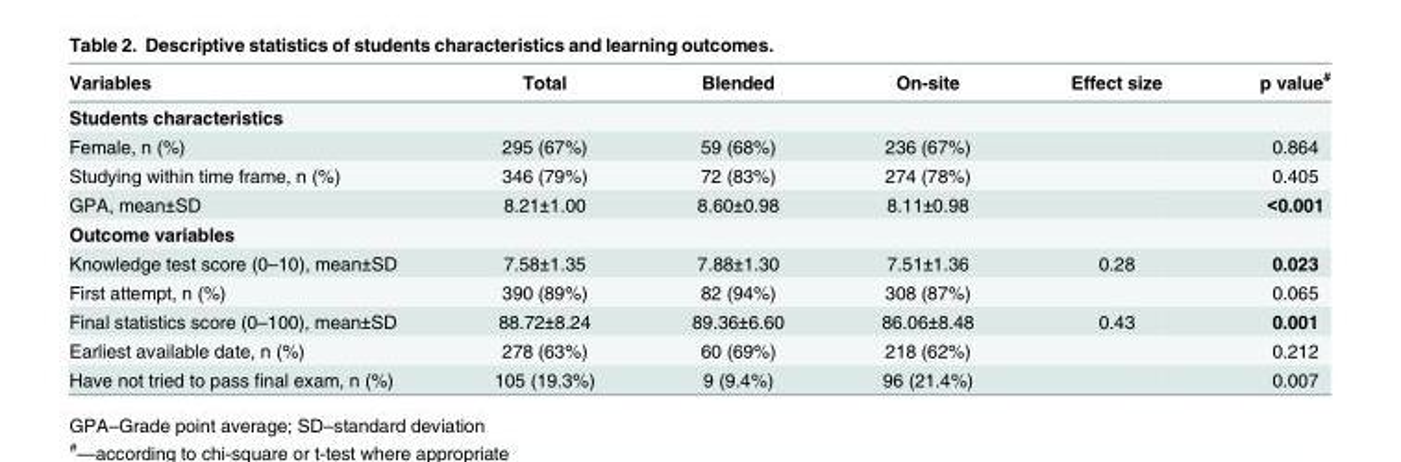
<table><thead><tr><td>Variables</td><td>Total</td><td>Blended</td><td>On-site</td><td>Effect size</td><td>p value<sup>#</sup></td></tr></thead><tbody><tr><td colspan="6">Students characteristics</td></tr><tr><td>Female, n (%)</td><td>295 (67%)</td><td>59 (68%)</td><td>236 (67%)</td><td></td><td>0.864</td></tr><tr><td>Studying within time frame, n (%)</td><td>346 (79%)</td><td>72 (83%)</td><td>274 (78%)</td><td></td><td>0.405</td></tr><tr><td>GPA, mean±SD</td><td>8.21±1.00</td><td>8.60±0.98</td><td>8.11±0.98</td><td></td><td>&lt;0.001</td></tr><tr><td colspan="6">Outcome variables</td></tr><tr><td>Knowledge test score (0–10), mean±SD</td><td>7.58±1.35</td><td>7.88±1.30</td><td>7.51±1.36</td><td>0.28</td><td>0.023</td></tr><tr><td>First attempt, n (%)</td><td>390 (89%)</td><td>82 (94%)</td><td>308 (87%)</td><td></td><td>0.065</td></tr><tr><td>Final statistics score (0–100), mean±SD</td><td>88.72±8.24</td><td>89.36±6.60</td><td>86.06±8.48</td><td>0.43</td><td>0.001</td></tr><tr><td>Earliest available date, n (%)</td><td>278 (63%)</td><td>60 (69%)</td><td>218 (62%)</td><td></td><td>0.212</td></tr><tr><td>Have not tried to pass final exam, n (%)</td><td>105 (19.3%)</td><td>9 (9.4%)</td><td>96 (21.4%)</td><td></td><td>0.007</td></tr></tbody></table>